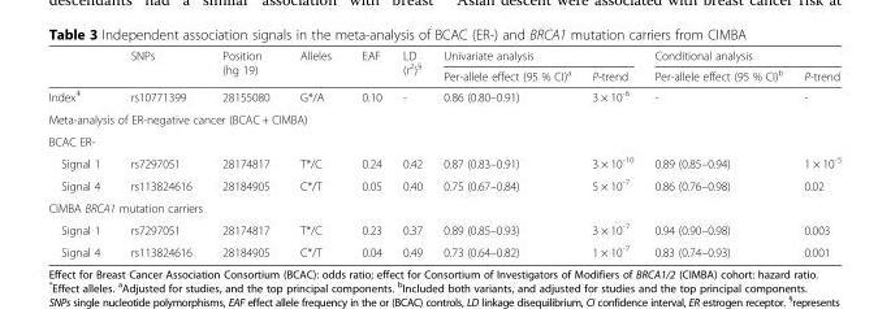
<table><thead><tr><td rowspan="2"></td><td rowspan="2">SNPs</td><td rowspan="2">Position (hg 19)</td><td rowspan="2">Alleles</td><td rowspan="2">EAF</td><td rowspan="2">LD (r<sup>2</sup>)<sup>§</sup></td><td colspan="2">Univariate analysis</td><td colspan="2">Conditional analysis</td></tr><tr><td>Per-allele effect (95 % CI)<sup>a</sup></td><td>P-trend</td><td>Per-allele effect (95 % CI)<sup>b</sup></td><td>P-trend</td></tr></thead><tbody><tr><td>Index<sup>ǂ</sup></td><td>rs10771399</td><td>28155080</td><td>G*/A</td><td>0.10</td><td>-</td><td>0.86 (0.80–0.91)</td><td>3 × 10<sup>-6</sup></td><td>-</td><td>-</td></tr><tr><td colspan="10">Meta-analysis of ER-negative cancer (BCAC + CIMBA)</td></tr><tr><td colspan="10">BCAC ER-</td></tr><tr><td>Signal 1</td><td>rs7297051</td><td>28174817</td><td>T*/C</td><td>0.24</td><td>0.42</td><td>0.87 (0.83–0.91)</td><td>3 × 10<sup>-10</sup></td><td>0.89 (0.85–0.94)</td><td>1 × 10<sup>-5</sup></td></tr><tr><td>Signal 4</td><td>rs113824616</td><td>28184905</td><td>C*/T</td><td>0.05</td><td>0.40</td><td>0.75 (0.67–0.84)</td><td>5 × 10<sup>-7</sup></td><td>0.86 (0.76–0.98)</td><td>0.02</td></tr><tr><td colspan="10">CIMBA BRCA1 mutation carriers</td></tr><tr><td>Signal 1</td><td>rs7297051</td><td>28174817</td><td>T*/C</td><td>0.23</td><td>0.37</td><td>0.89 (0.85–0.93)</td><td>3 × 10<sup>-7</sup></td><td>0.94 (0.90–0.98)</td><td>0.003</td></tr><tr><td>Signal 4</td><td>rs113824616</td><td>28184905</td><td>C*/T</td><td>0.04</td><td>0.49</td><td>0.73 (0.64–0.82)</td><td>1 × 10<sup>-7</sup></td><td>0.83 (0.74–0.93)</td><td>0.001</td></tr></tbody></table>